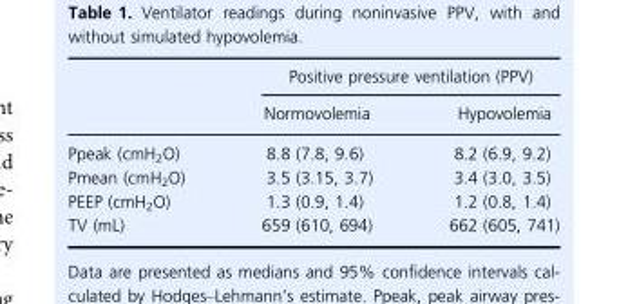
<table><thead><tr><td rowspan="2"></td><td colspan="2">Positive pressure ventilation (PPV)</td></tr><tr><td>Normovolemia</td><td>Hypovolemia</td></tr></thead><tbody><tr><td>Ppeak (cmH<sub>2</sub>O)</td><td>8.8 (7.8, 9.6)</td><td>8.2 (6.9, 9.2)</td></tr><tr><td>Pmean (cmH<sub>2</sub>O)</td><td>3.5 (3.15, 3.7)</td><td>3.4 (3.0, 3.5)</td></tr><tr><td>PEEP (cmH<sub>2</sub>O)</td><td>1.3 (0.9, 1.4)</td><td>1.2 (0.8, 1.4)</td></tr><tr><td>TV (mL)</td><td>659 (610, 694)</td><td>662 (605, 741)</td></tr></tbody></table>